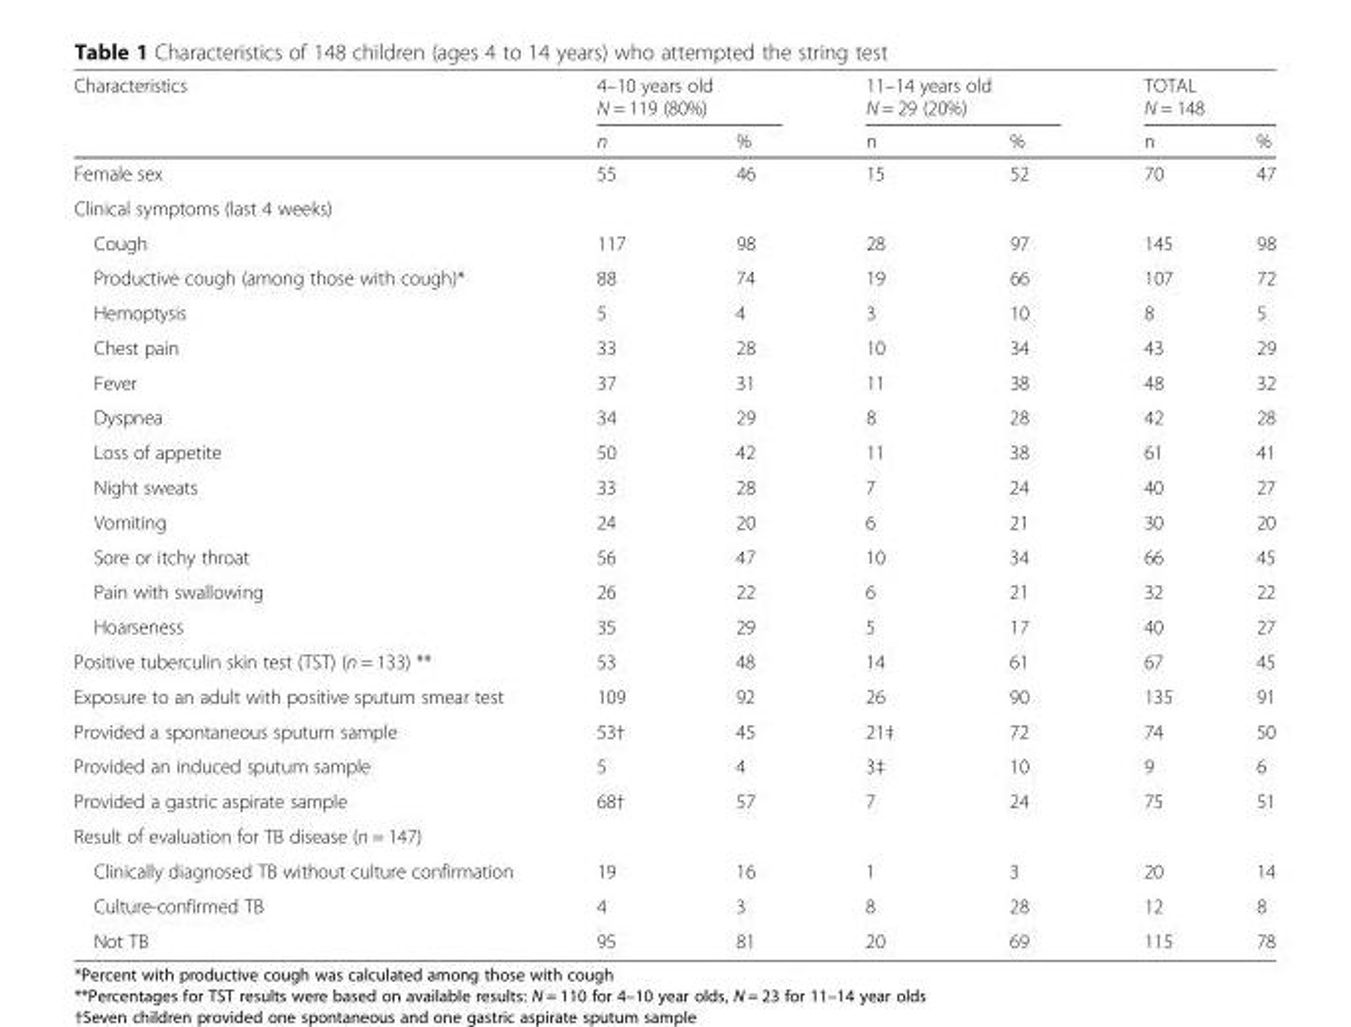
<table><thead><tr><td rowspan="2">Characteristics</td><td colspan="2">4–10 years old N = 119 (80%)</td><td colspan="2">11–14 years old N = 29 (20%)</td><td colspan="2">TOTAL N = 148</td></tr><tr><td>n</td><td>%</td><td>n</td><td>%</td><td>n</td><td>%</td></tr></thead><tbody><tr><td>Female sex</td><td>55</td><td>46</td><td>15</td><td>52</td><td>70</td><td>47</td></tr><tr><td colspan="7">Clinical symptoms (last 4 weeks)</td></tr><tr><td>Cough</td><td>117</td><td>98</td><td>28</td><td>97</td><td>145</td><td>98</td></tr><tr><td>Productive cough (among those with cough)*</td><td>88</td><td>74</td><td>19</td><td>66</td><td>107</td><td>72</td></tr><tr><td>Hemoptysis</td><td>5</td><td>4</td><td>3</td><td>10</td><td>8</td><td>5</td></tr><tr><td>Chest pain</td><td>33</td><td>28</td><td>10</td><td>34</td><td>43</td><td>29</td></tr><tr><td>Fever</td><td>37</td><td>31</td><td>11</td><td>38</td><td>48</td><td>32</td></tr><tr><td>Dyspnea</td><td>34</td><td>29</td><td>8</td><td>28</td><td>42</td><td>28</td></tr><tr><td>Loss of appetite</td><td>50</td><td>42</td><td>11</td><td>38</td><td>61</td><td>41</td></tr><tr><td>Night sweats</td><td>33</td><td>28</td><td>7</td><td>24</td><td>40</td><td>27</td></tr><tr><td>Vomiting</td><td>24</td><td>20</td><td>6</td><td>21</td><td>30</td><td>20</td></tr><tr><td>Sore or itchy throat</td><td>56</td><td>47</td><td>10</td><td>34</td><td>66</td><td>45</td></tr><tr><td>Pain with swallowing</td><td>26</td><td>22</td><td>6</td><td>21</td><td>32</td><td>22</td></tr><tr><td>Hoarseness</td><td>35</td><td>29</td><td>5</td><td>17</td><td>40</td><td>27</td></tr><tr><td>Positive tuberculin skin test (TST) (n = 133) **</td><td>53</td><td>48</td><td>14</td><td>61</td><td>67</td><td>45</td></tr><tr><td>Exposure to an adult with positive sputum smear test</td><td>109</td><td>92</td><td>26</td><td>90</td><td>135</td><td>91</td></tr><tr><td>Provided a spontaneous sputum sample</td><td>53†</td><td>45</td><td>21‡</td><td>72</td><td>74</td><td>50</td></tr><tr><td>Provided an induced sputum sample</td><td>5</td><td>4</td><td>3‡</td><td>10</td><td>9</td><td>6</td></tr><tr><td>Provided a gastric aspirate sample</td><td>68†</td><td>57</td><td>7</td><td>24</td><td>75</td><td>51</td></tr><tr><td colspan="7">Result of evaluation for TB disease (n = 147)</td></tr><tr><td>Clinically diagnosed TB without culture confirmation</td><td>19</td><td>16</td><td>1</td><td>3</td><td>20</td><td>14</td></tr><tr><td>Culture-confirmed TB</td><td>4</td><td>3</td><td>8</td><td>28</td><td>12</td><td>8</td></tr><tr><td>Not TB</td><td>95</td><td>81</td><td>20</td><td>69</td><td>115</td><td>78</td></tr></tbody></table>